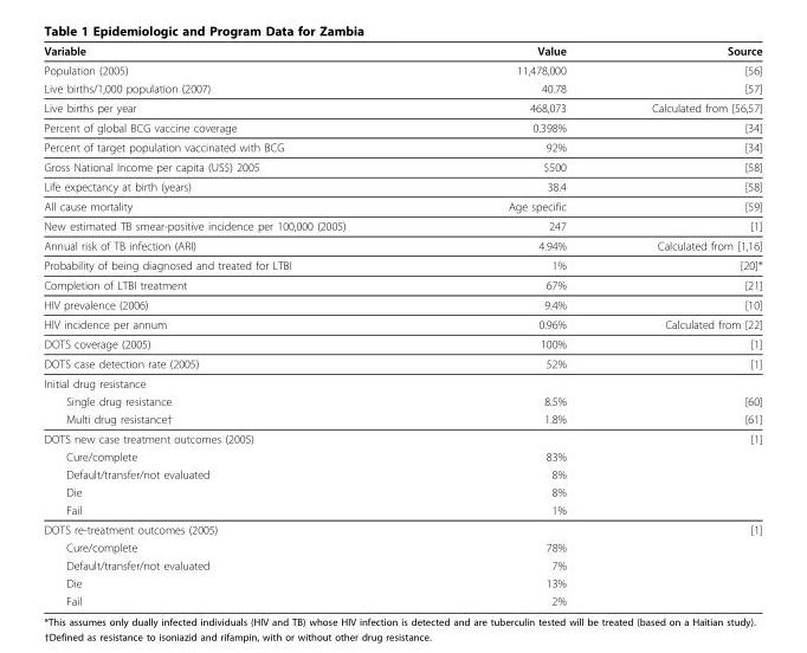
<table><thead><tr><td>Variable</td><td>Value</td><td>Source</td></tr></thead><tbody><tr><td>Population (2005)</td><td>11,478,000</td><td>[56]</td></tr><tr><td>Live births/1,000 population (2007)</td><td>40.78</td><td>[57]</td></tr><tr><td>Live births per year</td><td>468,073</td><td>Calculated from [56,57]</td></tr><tr><td>Percent of global BCG vaccine coverage</td><td>0.398%</td><td>[34]</td></tr><tr><td>Percent of target population vaccinated with BCG</td><td>92%</td><td>[34]</td></tr><tr><td>Gross National Income per capita (US$) 2005</td><td>$500</td><td>[58]</td></tr><tr><td>Life expectancy at birth (years)</td><td>38.4</td><td>[58]</td></tr><tr><td>All cause mortality</td><td>Age specific</td><td>[59]</td></tr><tr><td>New estimated TB smear-positive incidence per 100,000 (2005)</td><td>247</td><td>[1]</td></tr><tr><td>Annual risk of TB infection (ARI)</td><td>4.94%</td><td>Calculated from [1,16]</td></tr><tr><td>Probability of being diagnosed and treated for LTBI</td><td>1%</td><td>[20]*</td></tr><tr><td>Completion of LTBI treatment</td><td>67%</td><td>[21]</td></tr><tr><td>HIV prevalence (2006)</td><td>9.4%</td><td>[10]</td></tr><tr><td>HIV incidence per annum</td><td>0.96%</td><td>Calculated from [22]</td></tr><tr><td>DOTS coverage (2005)</td><td>100%</td><td>[1]</td></tr><tr><td>DOTS case detection rate (2005)</td><td>52%</td><td>[1]</td></tr><tr><td colspan="3">Initial drug resistance</td></tr><tr><td>Single drug resistance</td><td>8.5%</td><td>[60]</td></tr><tr><td>Multi drug resistance†</td><td>1.8%</td><td>[61]</td></tr><tr><td>DOTS new case treatment outcomes (2005)</td><td></td><td>[1]</td></tr><tr><td>Cure/complete</td><td>83%</td><td></td></tr><tr><td>Default/transfer/not evaluated</td><td>8%</td><td></td></tr><tr><td>Die</td><td>8%</td><td></td></tr><tr><td>Fail</td><td>1%</td><td></td></tr><tr><td>DOTS re-treatment outcomes (2005)</td><td></td><td>[1]</td></tr><tr><td>Cure/complete</td><td>78%</td><td></td></tr><tr><td>Default/transfer/not evaluated</td><td>7%</td><td></td></tr><tr><td>Die</td><td>13%</td><td></td></tr><tr><td>Fail</td><td>2%</td><td></td></tr></tbody></table>